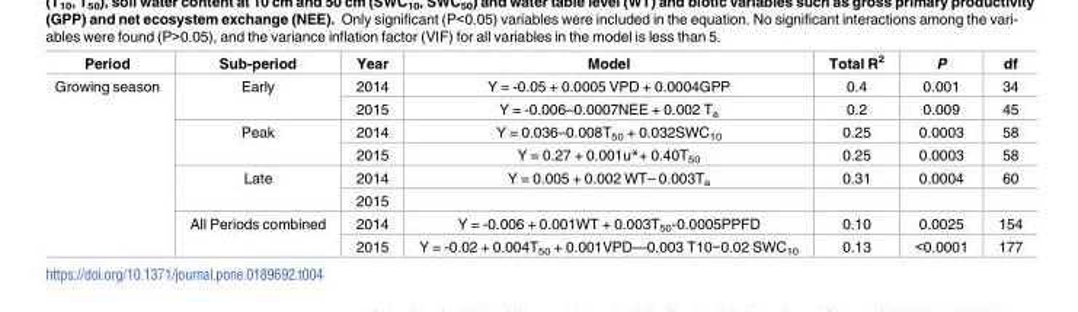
<table><thead><tr><td>Period</td><td>Sub-period</td><td>Year</td><td>Model</td><td>Total R<sup>2</sup></td><td>P</td><td>df</td></tr></thead><tbody><tr><td rowspan="8">Growing season</td><td rowspan="2">Early</td><td>2014</td><td>Y = -0.05 + 0.0005 VPD + 0.0004GPP</td><td>0.4</td><td>0.001</td><td>34</td></tr><tr><td>2015</td><td>Y = -0.006–0.0007NEE + 0.002 T<sub>a</sub></td><td>0.2</td><td>0.009</td><td>45</td></tr><tr><td rowspan="2">Peak</td><td>2014</td><td>Y = 0.036–0.008T<sub>50</sub> + 0.032SWC<sub>10</sub></td><td>0.25</td><td>0.0003</td><td>58</td></tr><tr><td>2015</td><td>Y = 0.27 + 0.001u*+ 0.40T<sub>50</sub></td><td>0.25</td><td>0.0003</td><td>58</td></tr><tr><td rowspan="2">Late</td><td>2014</td><td>Y = 0.005 + 0.002 WT– 0.003T<sub>a</sub></td><td>0.31</td><td>0.0004</td><td>60</td></tr><tr><td>2015</td><td></td><td></td><td></td><td></td></tr><tr><td rowspan="2">All Periods combined</td><td>2014</td><td>Y = -0.006 + 0.001WT + 0.003T<sub>50</sub>-0.0005PPFD</td><td>0.10</td><td>0.0025</td><td>154</td></tr><tr><td>2015</td><td>Y = -0.02 + 0.004T<sub>50</sub> + 0.001VPD—0.003 T10−0.02 SWC<sub>10</sub></td><td>0.13</td><td>&lt;0.0001</td><td>177</td></tr></tbody></table>